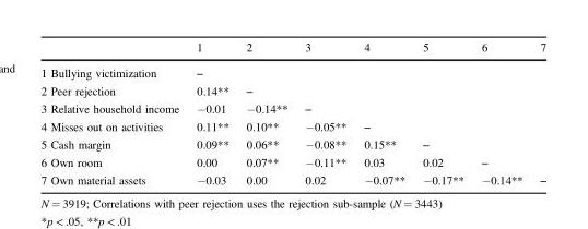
<table><thead><tr><td></td><td>1</td><td>2</td><td>3</td><td>4</td><td>5</td><td>6</td><td>7</td></tr></thead><tbody><tr><td>1 Bullying victimization</td><td>–</td><td></td><td></td><td></td><td></td><td></td><td></td></tr><tr><td>2 Peer rejection</td><td>0.14**</td><td>–</td><td></td><td></td><td></td><td></td><td></td></tr><tr><td>3 Relative household income</td><td>−0.01</td><td>−0.14**</td><td>–</td><td></td><td></td><td></td><td></td></tr><tr><td>4 Misses out on activities</td><td>0.11**</td><td>0.10**</td><td>−0.05**</td><td>–</td><td></td><td></td><td></td></tr><tr><td>5 Cash margin</td><td>0.09**</td><td>0.06**</td><td>−0.08**</td><td>0.15**</td><td>–</td><td></td><td></td></tr><tr><td>6 Own room</td><td>0.00</td><td>0.07**</td><td>−0.11**</td><td>0.03</td><td>0.02</td><td>–</td><td></td></tr><tr><td>7 Own material assets</td><td>−0.03</td><td>0.00</td><td>0.02</td><td>−0.07**</td><td>−0.17**</td><td>−0.14**</td><td>–</td></tr></tbody></table>